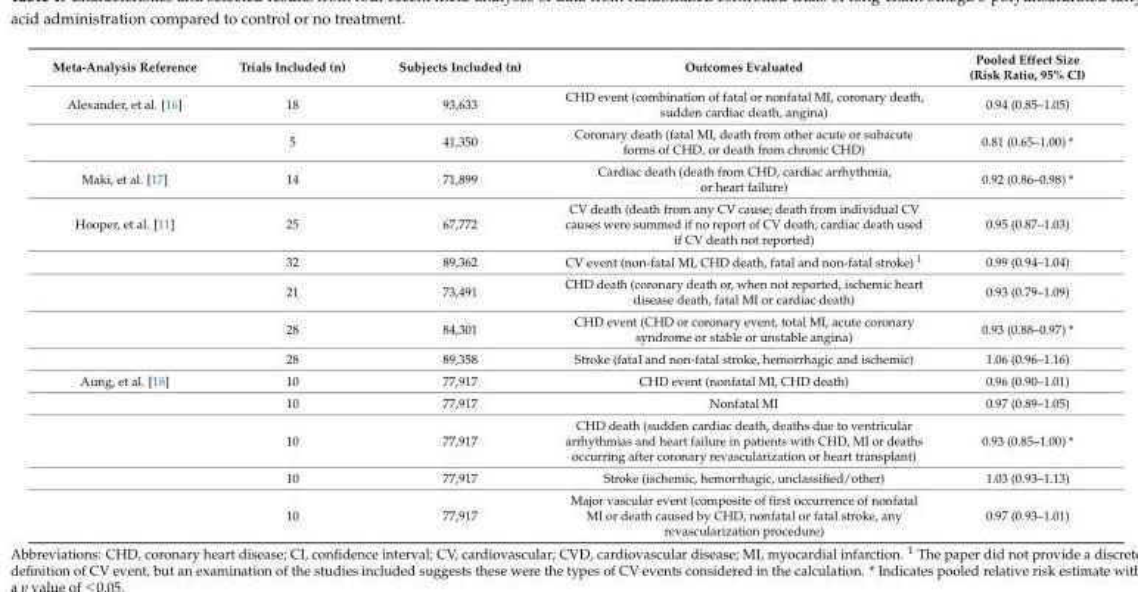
<table><thead><tr><td>Meta-Analysis Reference</td><td>Trials Included (n)</td><td>Subjects Included (n)</td><td>Outcomes Evaluated</td><td>Pooled Effect Size (Risk Ratio, 95% CI)</td></tr></thead><tbody><tr><td rowspan="2">Alexander, et al. [16]</td><td>18</td><td>93,633</td><td>CHD event (combination of fatal or nonfatal MI, coronary death, sudden cardiac death, angina)</td><td>0.94 (0.85–1.05)</td></tr><tr><td>5</td><td>41,350</td><td>Coronary death (fatal MI, death from other acute or subacute forms of CHD, or death from chronic CHD)</td><td>0.81 (0.65–1.00) *</td></tr><tr><td>Maki, et al. [17]</td><td>14</td><td>71,899</td><td>Cardiac death (death from CHD, cardiac arrhythmia, or heart failure)</td><td>0.92 (0.86–0.98) *</td></tr><tr><td rowspan="5">Hooper, et al. [11]</td><td>25</td><td>67,772</td><td>CV death (death from any CV cause; death from individual CV causes were summed if no report of CV death; cardiac death used if CV death not reported)</td><td>0.95 (0.87–1.03)</td></tr><tr><td>32</td><td>89,362</td><td>CV event (non-fatal MI, CHD death, fatal and non-fatal stroke) <sup>1</sup></td><td>0.99 (0.94–1.04)</td></tr><tr><td>21</td><td>73,491</td><td>CHD death (coronary death or, when not reported, ischemic heart disease death, fatal MI or cardiac death)</td><td>0.93 (0.79–1.09)</td></tr><tr><td>28</td><td>84,301</td><td>CHD event (CHD or coronary event, total MI, acute coronary syndrome or stable or unstable angina)</td><td>0.93 (0.88–0.97) *</td></tr><tr><td>28</td><td>89,358</td><td>Stroke (fatal and non-fatal stroke, hemorrhagic and ischemic)</td><td>1.06 (0.96–1.16)</td></tr><tr><td rowspan="5">Aung, et al. [18]</td><td>10</td><td>77,917</td><td>CHD event (nonfatal MI, CHD death)</td><td>0.96 (0.90–1.01)</td></tr><tr><td>10</td><td>77,917</td><td>Nonfatal MI</td><td>0.97 (0.89–1.05)</td></tr><tr><td>10</td><td>77,917</td><td>CHD death (sudden cardiac death, deaths due to ventricular arrhythmias and heart failure in patients with CHD, MI or deaths occurring after coronary revascularization or heart transplant)</td><td>0.93 (0.85–1.00) *</td></tr><tr><td>10</td><td>77,917</td><td>Stroke (ischemic, hemorrhagic, unclassified/other)</td><td>1.03 (0.93–1.13)</td></tr><tr><td>10</td><td>77,917</td><td>Major vascular event (composite of first occurrence of nonfatal MI or death caused by CHD, nonfatal or fatal stroke, any revascularization procedure)</td><td>0.97 (0.93–1.01)</td></tr></tbody></table>